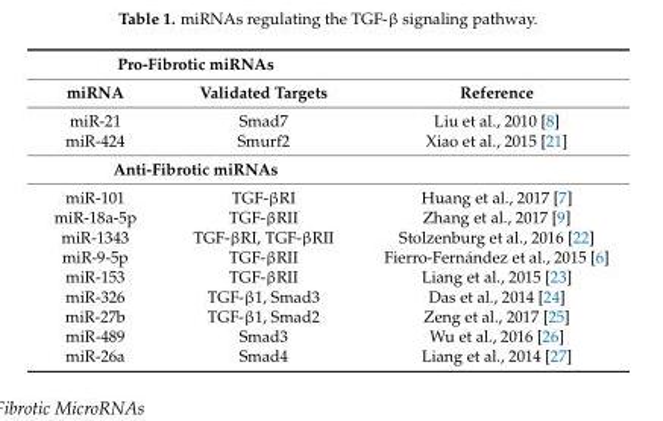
<table><tbody><tr><td colspan="3">Pro-Fibrotic miRNAs</td></tr><tr><td>miRNA</td><td>Validated Targets</td><td>Reference</td></tr><tr><td>miR-21</td><td>Smad7</td><td>Liu et al., 2010 [8]</td></tr><tr><td>miR-424</td><td>Smurf2</td><td>Xiao et al., 2015 [21]</td></tr><tr><td colspan="3">Anti-Fibrotic miRNAs</td></tr><tr><td>miR-101</td><td>TGF-βRI</td><td>Huang et al., 2017 [7]</td></tr><tr><td>miR-18a-5p</td><td>TGF-βRII</td><td>Zhang et al., 2017 [9]</td></tr><tr><td>miR-1343</td><td>TGF-βRI, TGF-βRII</td><td>Stolzenburg et al., 2016 [22]</td></tr><tr><td>miR-9-5p</td><td>TGF-βRII</td><td>Fierro-Fernández et al., 2015 [6]</td></tr><tr><td>miR-153</td><td>TGF-βRII</td><td>Liang et al., 2015 [23]</td></tr><tr><td>miR-326</td><td>TGF-β1, Smad3</td><td>Das et al., 2014 [24]</td></tr><tr><td>miR-27b</td><td>TGF-β1, Smad2</td><td>Zeng et al., 2017 [25]</td></tr><tr><td>miR-489</td><td>Smad3</td><td>Wu et al., 2016 [26]</td></tr><tr><td>miR-26a</td><td>Smad4</td><td>Liang et al., 2014 [27]</td></tr></tbody></table>